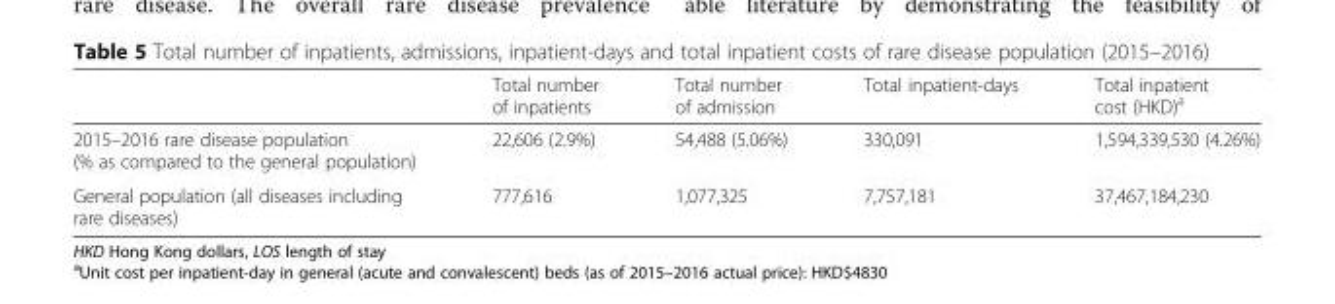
<table><thead><tr><td></td><td>Total number of inpatients</td><td>Total number of admission</td><td>Total inpatient-days</td><td>Total inpatient cost (HKD)<sup>a</sup></td></tr></thead><tbody><tr><td>2015–2016 rare disease population (% as compared to the general population)</td><td>22,606 (2.9%)</td><td>54,488 (5.06%)</td><td>330,091</td><td>1,594,339,530 (4.26%)</td></tr><tr><td>General population (all diseases including rare diseases)</td><td>777,616</td><td>1,077,325</td><td>7,757,181</td><td>37,467,184,230</td></tr></tbody></table>